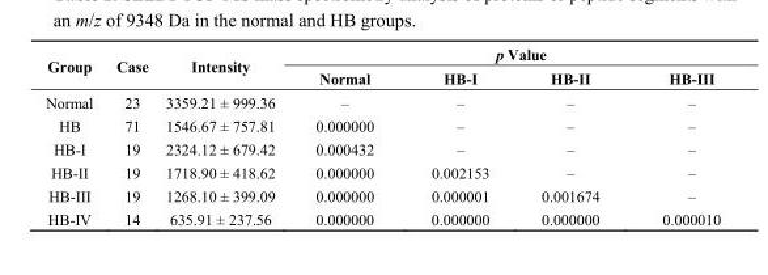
<table><thead><tr><td rowspan="2">Group</td><td rowspan="2">Case</td><td rowspan="2">Intensity</td><td colspan="4">p Value</td></tr><tr><td>Normal</td><td>HB-I</td><td>HB-II</td><td>HB-III</td></tr></thead><tbody><tr><td>Normal</td><td>23</td><td>3359.21 ± 999.36</td><td>–</td><td>–</td><td>–</td><td>–</td></tr><tr><td>HB</td><td>71</td><td>1546.67 ± 757.81</td><td>0.000000</td><td>–</td><td>–</td><td>–</td></tr><tr><td>HB-I</td><td>19</td><td>2324.12 ± 679.42</td><td>0.000432</td><td>–</td><td>–</td><td>–</td></tr><tr><td>HB-II</td><td>19</td><td>1718.90 ± 418.62</td><td>0.000000</td><td>0.002153</td><td>–</td><td>–</td></tr><tr><td>HB-III</td><td>19</td><td>1268.10 ± 399.09</td><td>0.000000</td><td>0.000001</td><td>0.001674</td><td>–</td></tr><tr><td>HB-IV</td><td>14</td><td>635.91 ± 237.56</td><td>0.000000</td><td>0.000000</td><td>0.000000</td><td>0.000010</td></tr></tbody></table>